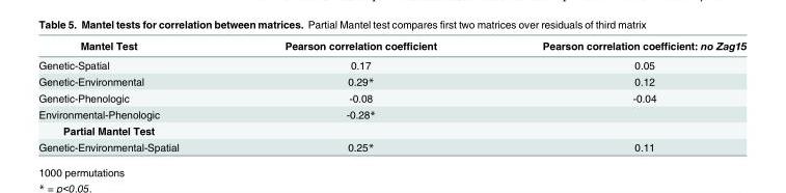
<table><thead><tr><td>Mantel Test</td><td>Pearson correlation coefficient</td><td>Pearson correlation coefficient: no Zag15</td></tr></thead><tbody><tr><td>Genetic-Spatial</td><td>0.17</td><td>0.05</td></tr><tr><td>Genetic-Environmental</td><td>0.29*</td><td>0.12</td></tr><tr><td>Genetic-Phenologic</td><td>-0.08</td><td>-0.04</td></tr><tr><td>Environmental-Phenologic</td><td>-0.28*</td><td></td></tr><tr><td colspan="3">Partial Mantel Test</td></tr><tr><td>Genetic-Environmental-Spatial</td><td>0.25*</td><td>0.11</td></tr></tbody></table>